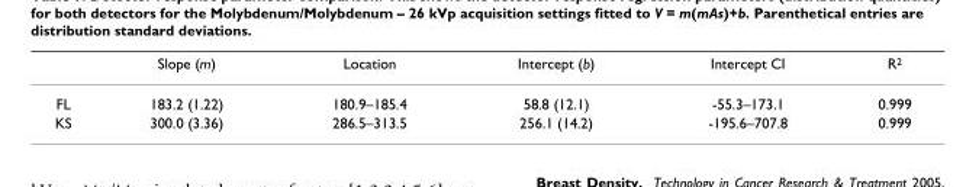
<table><thead><tr><td></td><td>Slope (m)</td><td>Location</td><td>Intercept (b)</td><td>Intercept CI</td><td>R<sup>2</sup></td></tr></thead><tbody><tr><td>FL</td><td>183.2 (1.22)</td><td>180.9–185.4</td><td>58.8 (12.1)</td><td>-55.3–173.1</td><td>0.999</td></tr><tr><td>KS</td><td>300.0 (3.36)</td><td>286.5–313.5</td><td>256.1 (14.2)</td><td>-195.6–707.8</td><td>0.999</td></tr></tbody></table>